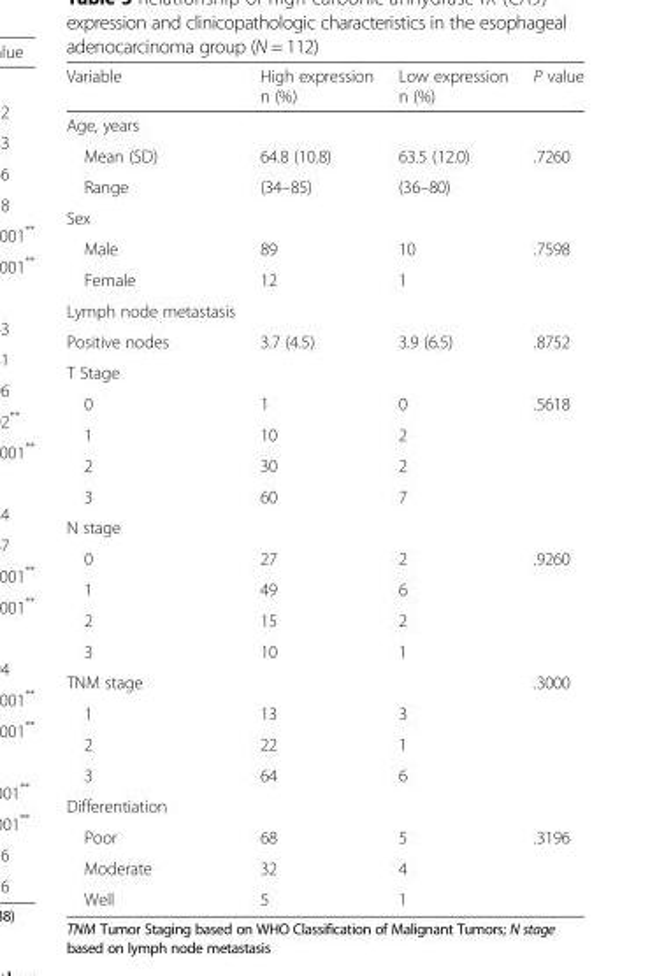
<table><thead><tr><td>Variable</td><td>High expression n (%)</td><td>Low expression n (%)</td><td>P value</td></tr></thead><tbody><tr><td colspan="4">Age, years</td></tr><tr><td>Mean (SD)</td><td>64.8 (10.8)</td><td>63.5 (12.0)</td><td>.7260</td></tr><tr><td>Range</td><td>(34–85)</td><td>(36–80)</td><td></td></tr><tr><td colspan="4">Sex</td></tr><tr><td>Male</td><td>89</td><td>10</td><td>.7598</td></tr><tr><td>Female</td><td>12</td><td>1</td><td></td></tr><tr><td colspan="4">Lymph node metastasis</td></tr><tr><td>Positive nodes</td><td>3.7 (4.5)</td><td>3.9 (6.5)</td><td>.8752</td></tr><tr><td colspan="4">T Stage</td></tr><tr><td>0</td><td>1</td><td>0</td><td>.5618</td></tr><tr><td>1</td><td>10</td><td>2</td><td></td></tr><tr><td>2</td><td>30</td><td>2</td><td></td></tr><tr><td>3</td><td>60</td><td>7</td><td></td></tr><tr><td colspan="4">N stage</td></tr><tr><td>0</td><td>27</td><td>2</td><td>.9260</td></tr><tr><td>1</td><td>49</td><td>6</td><td></td></tr><tr><td>2</td><td>15</td><td>2</td><td></td></tr><tr><td>3</td><td>10</td><td>1</td><td></td></tr><tr><td>TNM stage</td><td></td><td></td><td>.3000</td></tr><tr><td>1</td><td>13</td><td>3</td><td></td></tr><tr><td>2</td><td>22</td><td>1</td><td></td></tr><tr><td>3</td><td>64</td><td>6</td><td></td></tr><tr><td colspan="4">Differentiation</td></tr><tr><td>Poor</td><td>68</td><td>5</td><td>.3196</td></tr><tr><td>Moderate</td><td>32</td><td>4</td><td></td></tr><tr><td>Well</td><td>5</td><td>1</td><td></td></tr></tbody></table>